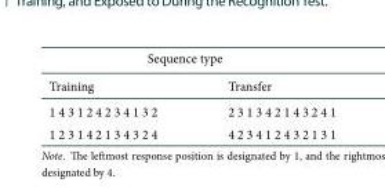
<table><thead><tr><td colspan="2">Sequence type</td></tr><tr><td>Training</td><td>Transfer</td></tr></thead><tbody><tr><td>1 4 3 1 2 4 2 3 4 1 3 2</td><td>2 3 1 3 4 2 1 4 3 2 4 1</td></tr><tr><td>1 2 3 1 4 2 1 3 4 3 2 4</td><td>4 2 3 4 1 2 4 3 2 1 3 1</td></tr></tbody></table>